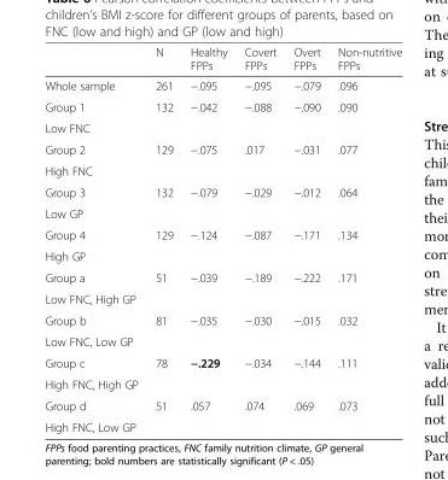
<table><thead><tr><td></td><td>N</td><td>Healthy FPPs</td><td>Covert FPPs</td><td>Overt FPPs</td><td>Non-nutritive FPPs</td></tr></thead><tbody><tr><td>Whole sample</td><td>261</td><td>−.095</td><td>−.095</td><td>−.079</td><td>.096</td></tr><tr><td>Group 1</td><td rowspan="2">132</td><td rowspan="2">−.042</td><td rowspan="2">−.088</td><td rowspan="2">−.090</td><td rowspan="2">.090</td></tr><tr><td>Low FNC</td></tr><tr><td>Group 2</td><td rowspan="2">129</td><td rowspan="2">−.075</td><td rowspan="2">.017</td><td rowspan="2">−.031</td><td rowspan="2">.077</td></tr><tr><td>High FNC</td></tr><tr><td>Group 3</td><td rowspan="2">132</td><td rowspan="2">−.079</td><td rowspan="2">−.029</td><td rowspan="2">−.012</td><td rowspan="2">.064</td></tr><tr><td>Low GP</td></tr><tr><td>Group 4</td><td rowspan="2">129</td><td rowspan="2">−.124</td><td rowspan="2">−.087</td><td rowspan="2">−.171</td><td rowspan="2">.134</td></tr><tr><td>High GP</td></tr><tr><td>Group a</td><td rowspan="2">51</td><td rowspan="2">−.039</td><td rowspan="2">−.189</td><td rowspan="2">−.222</td><td rowspan="2">.171</td></tr><tr><td>Low FNC, High GP</td></tr><tr><td>Group b</td><td rowspan="2">81</td><td rowspan="2">−.035</td><td rowspan="2">−.030</td><td rowspan="2">−.015</td><td rowspan="2">.032</td></tr><tr><td>Low FNC, Low GP</td></tr><tr><td>Group c</td><td rowspan="2">78</td><td rowspan="2">−.229</td><td rowspan="2">−.034</td><td rowspan="2">−.144</td><td rowspan="2">.111</td></tr><tr><td>High FNC, High GP</td></tr><tr><td>Group d</td><td rowspan="2">51</td><td rowspan="2">.057</td><td rowspan="2">.074</td><td rowspan="2">.069</td><td rowspan="2">.073</td></tr><tr><td>High FNC, Low GP</td></tr></tbody></table>